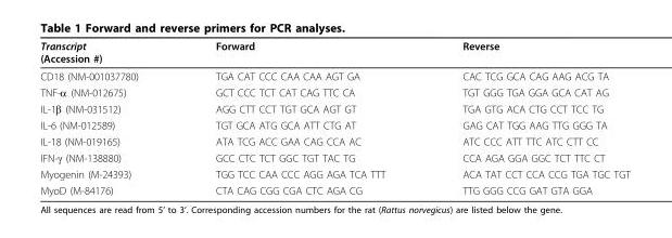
<table><thead><tr><td>Transcript (Accession #)</td><td>Forward</td><td>Reverse</td></tr></thead><tbody><tr><td>CD18 (NM-001037780)</td><td>TGA CAT CCC CAA CAA AGT GA</td><td>CAC TCG GCA CAG AAG ACG TA</td></tr><tr><td>TNF-α (NM-012675)</td><td>GCT CCC TCT CAT CAG TTC CA</td><td>TGT GGG TGA GGA GCA CAT AG</td></tr><tr><td>IL-1β (NM-031512)</td><td>AGG CTT CCT TGT GCA AGT GT</td><td>TGA GTG ACA CTG CCT TCC TG</td></tr><tr><td>IL-6 (NM-012589)</td><td>TGT GCA ATG GCA ATT CTG AT</td><td>GAG CAT TGG AAG TTG GGG TA</td></tr><tr><td>IL-18 (NM-019165)</td><td>ATA TCG ACC GAA CAG CCA AC</td><td>ATC CCC ATT TTC ATC CTT CC</td></tr><tr><td>IFN-γ (NM-138880)</td><td>GCC CTC TCT GGC TGT TAC TG</td><td>CCA AGA GGA GGC TCT TTC CT</td></tr><tr><td>Myogenin (M-24393)</td><td>TGG TCC CAA CCC AGG AGA TCA TTT</td><td>ACA TAT CCT CCA CCG TGA TGC TGT</td></tr><tr><td>MyoD (M-84176)</td><td>CTA CAG CGG CGA CTC AGA CG</td><td>TTG GGG CCG GAT GTA GGA</td></tr></tbody></table>